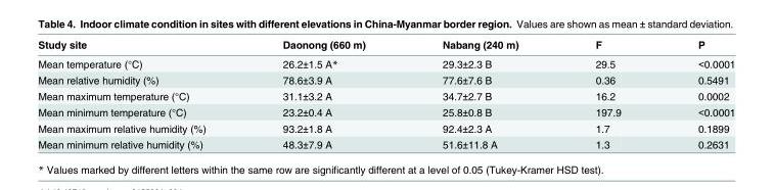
<table><thead><tr><td>Study site</td><td>Daonong (660 m)</td><td>Nabang (240 m)</td><td>F</td><td>P</td></tr></thead><tbody><tr><td>Mean temperature (°C)</td><td>26.2±1.5 A*</td><td>29.3±2.3 B</td><td>29.5</td><td>&lt;0.0001</td></tr><tr><td>Mean relative humidity (%)</td><td>78.6±3.9 A</td><td>77.6±7.6 B</td><td>0.36</td><td>0.5491</td></tr><tr><td>Mean maximum temperature (°C)</td><td>31.1±3.2 A</td><td>34.7±2.7 B</td><td>16.2</td><td>0.0002</td></tr><tr><td>Mean minimum temperature (°C)</td><td>23.2±0.4 A</td><td>25.8±0.8 B</td><td>197.9</td><td>&lt;0.0001</td></tr><tr><td>Mean maximum relative humidity (%)</td><td>93.2±1.8 A</td><td>92.4±2.3 A</td><td>1.7</td><td>0.1899</td></tr><tr><td>Mean minimum relative humidity (%)</td><td>48.3±7.9 A</td><td>51.6±11.8 A</td><td>1.3</td><td>0.2631</td></tr></tbody></table>